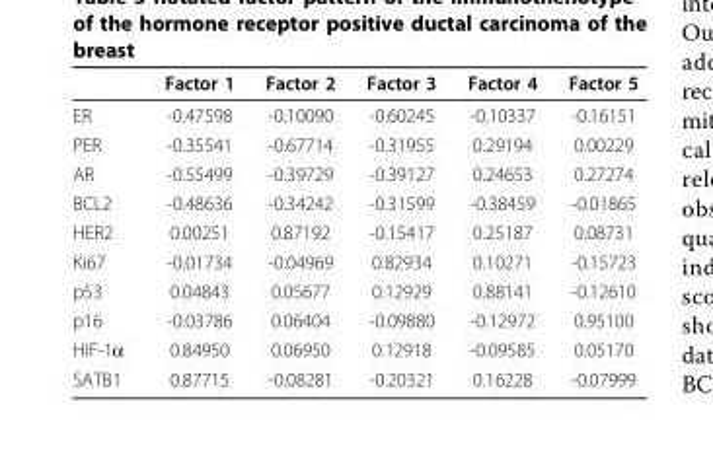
<table><thead><tr><td></td><td>Factor 1</td><td>Factor 2</td><td>Factor 3</td><td>Factor 4</td><td>Factor 5</td></tr></thead><tbody><tr><td>ER</td><td>-0.47598</td><td>-0.10090</td><td>-0.60245</td><td>-0.10337</td><td>-0.16151</td></tr><tr><td>PER</td><td>-0.35541</td><td>-0.67714</td><td>-0.31955</td><td>0.29194</td><td>0.00229</td></tr><tr><td>AR</td><td>-0.55499</td><td>-0.39729</td><td>-0.39127</td><td>0.24653</td><td>0.27274</td></tr><tr><td>BCL2</td><td>-0.48636</td><td>-0.34242</td><td>-0.31599</td><td>-0.38459</td><td>-0.01865</td></tr><tr><td>HER2</td><td>0.00251</td><td>0.87192</td><td>-0.15417</td><td>0.25187</td><td>0.08731</td></tr><tr><td>Ki67</td><td>-0.01734</td><td>-0.04969</td><td>0.82934</td><td>0.10271</td><td>-0.15723</td></tr><tr><td>p53</td><td>0.04843</td><td>0.05677</td><td>0.12929</td><td>0.88141</td><td>-0.12610</td></tr><tr><td>p16</td><td>-0.03786</td><td>0.06404</td><td>-0.09880</td><td>-0.12972</td><td>0.95100</td></tr><tr><td>HIF-1α</td><td>0.84950</td><td>0.06950</td><td>0.12918</td><td>-0.09585</td><td>0.05170</td></tr><tr><td>SATB1</td><td>0.87715</td><td>-0.08281</td><td>-0.20321</td><td>0.16228</td><td>-0.07999</td></tr></tbody></table>